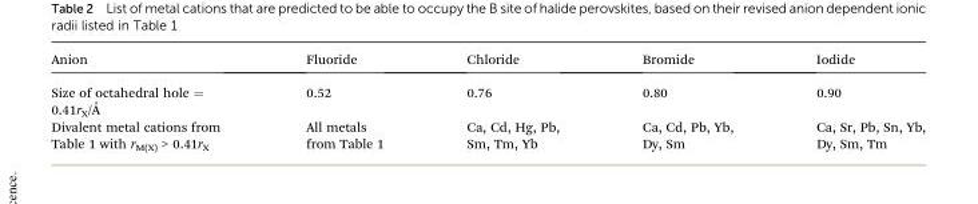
<table><thead><tr><td>Anion</td><td>Fluoride</td><td>Chloride</td><td>Bromide</td><td>Iodide</td></tr></thead><tbody><tr><td>Size of octahedral hole ¼ 0.41rX/˚A</td><td>0.52</td><td>0.76</td><td>0.80</td><td>0.90</td></tr><tr><td>Divalent metal cations from Table 1 with r<sub>M(X)</sub> &gt; 0.41r<sub>X</sub></td><td>All metals from Table 1</td><td>Ca, Cd, Hg, Pb, Sm, Tm, Yb</td><td>Ca, Cd, Pb, Yb, Dy, Sm</td><td>Ca, Sr, Pb, Sn, Yb, Dy, Sm, Tm</td></tr></tbody></table>